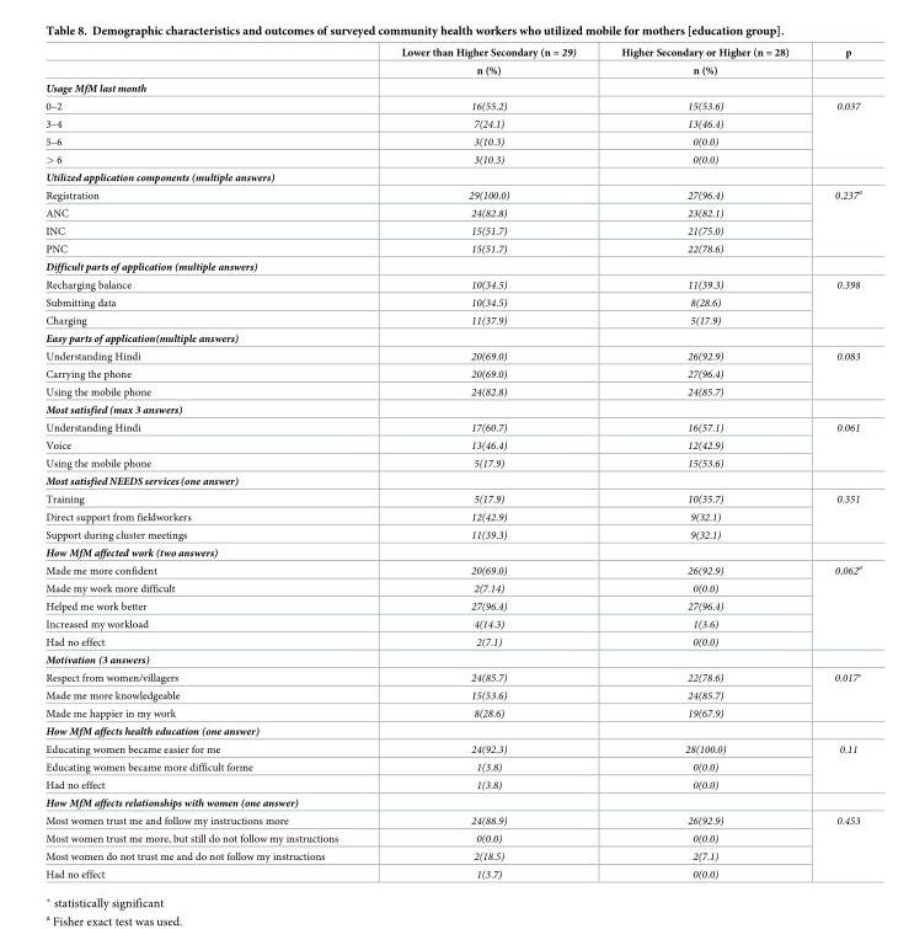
<table><thead><tr><td rowspan="2"></td><td rowspan="2">Lower than Higher Secondary (n = 29) n (%)</td><td rowspan="2">Higher Secondary or Higher (n = 28) n (%)</td><td rowspan="2">p</td></tr><tr></tr></thead><tbody><tr><td colspan="4">Usage MfM last month</td></tr><tr><td>0–2</td><td>16(55.2)</td><td>15(53.6)</td><td rowspan="4">0.037</td></tr><tr><td>3–4</td><td>7(24.1)</td><td>13(46.4)</td></tr><tr><td>5–6</td><td>3(10.3)</td><td>0(0.0)</td></tr><tr><td>&gt; 6</td><td>3(10.3)</td><td>0(0.0)</td></tr><tr><td colspan="4">Utilized application components (multiple answers)</td></tr><tr><td>Registration</td><td>29(100.0)</td><td>27(96.4)</td><td rowspan="4">0.237<sup>a</sup></td></tr><tr><td>ANC</td><td>24(82.8)</td><td>23(82.1)</td></tr><tr><td>INC</td><td>15(51.7)</td><td>21(75.0)</td></tr><tr><td>PNC</td><td>15(51.7)</td><td>22(78.6)</td></tr><tr><td colspan="4">Difficult parts of application (multiple answers)</td></tr><tr><td>Recharging balance</td><td>10(34.5)</td><td>11(39.3)</td><td rowspan="3">0.398</td></tr><tr><td>Submitting data</td><td>10(34.5)</td><td>8(28.6)</td></tr><tr><td>Charging</td><td>11(37.9)</td><td>5(17.9)</td></tr><tr><td colspan="4">Easy parts of application(multiple answers)</td></tr><tr><td>Understanding Hindi</td><td>20(69.0)</td><td>26(92.9)</td><td rowspan="3">0.083</td></tr><tr><td>Carrying the phone</td><td>20(69.0)</td><td>27(96.4)</td></tr><tr><td>Using the mobile phone</td><td>24(82.8)</td><td>24(85.7)</td></tr><tr><td colspan="4">Most satisfied (max 3 answers)</td></tr><tr><td>Understanding Hindi</td><td>17(60.7)</td><td>16(57.1)</td><td rowspan="3">0.061</td></tr><tr><td>Voice</td><td>13(46.4)</td><td>12(42.9)</td></tr><tr><td>Using the mobile phone</td><td>5(17.9)</td><td>15(53.6)</td></tr><tr><td colspan="4">Most satisfied NEEDS services(one answer)</td></tr><tr><td>Training</td><td>5(17.9)</td><td>10(35.7)</td><td rowspan="3">0.351</td></tr><tr><td>Direct support from fieldworkers</td><td>12(42.9)</td><td>9(32.1)</td></tr><tr><td>Support during cluster meetings</td><td>11(39.3)</td><td>9(32.1)</td></tr><tr><td colspan="4">How MfM affected work (two answers)</td></tr><tr><td>Made me more confident</td><td>20(69.0)</td><td>26(92.9)</td><td rowspan="5">0.062<sup>a</sup></td></tr><tr><td>Made my work more difficult</td><td>2(7.14)</td><td>0(0.0)</td></tr><tr><td>Helped me work better</td><td>27(96.4)</td><td>27(96.4)</td></tr><tr><td>Increased my workload</td><td>4(14.3)</td><td>1(3.6)</td></tr><tr><td>Had no effect</td><td>2(7.1)</td><td>0(0.0)</td></tr><tr><td colspan="4">Motivation (3 answers)</td></tr><tr><td>Respect from women/villagers</td><td>24(85.7)</td><td>22(78.6)</td><td rowspan="3">0.017*</td></tr><tr><td>Made me more knowledgeable</td><td>15(53.6)</td><td>24(85.7)</td></tr><tr><td>Made me happier in my work</td><td>8(28.6)</td><td>19(67.9)</td></tr><tr><td colspan="4">How MfM affects health education (one answer)</td></tr><tr><td>Educating women became easier for me</td><td>24(92.3)</td><td>28(100.0)</td><td rowspan="3">0.11</td></tr><tr><td>Educating women became more difficult forme</td><td>1(3.8)</td><td>0(0.0)</td></tr><tr><td>Had no effect</td><td>1(3.8)</td><td>0(0.0)</td></tr><tr><td colspan="4">How MfM affects relationships with women (one answer)</td></tr><tr><td>Most women trust me and follow my instructions more</td><td>24(88.9)</td><td>26(92.9)</td><td rowspan="4">0.453</td></tr><tr><td>Most women trust me more, but still do not follow my instructions</td><td>0(0.0)</td><td>0(0.0)</td></tr><tr><td>Most women do not trust me and do not follow my instructions</td><td>2(18.5)</td><td>2(7.1)</td></tr><tr><td>Had no effect</td><td>1(3.7)</td><td>0(0.0)</td></tr></tbody></table>